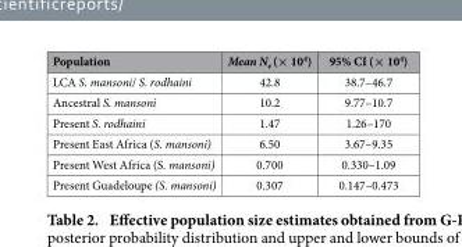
<table><thead><tr><td>Population</td><td>Mean N<sub>e</sub> (× 10<sup>4</sup>)</td><td>95% CI (× 10<sup>4</sup>)</td></tr></thead><tbody><tr><td>LCA S. mansoni/ S. rodhaini</td><td>42.8</td><td>38.7–46.7</td></tr><tr><td>Ancestral S. mansoni</td><td>10.2</td><td>9.77–10.7</td></tr><tr><td>Present S. rodhaini</td><td>1.47</td><td>1.26–170</td></tr><tr><td>Present East Africa (S. mansoni)</td><td>6.50</td><td>3.67–9.35</td></tr><tr><td>Present West Africa (S. mansoni)</td><td>0.700</td><td>0.330–1.09</td></tr><tr><td>Present Guadeloupe (S. mansoni)</td><td>0.307</td><td>0.147–0.473</td></tr></tbody></table>